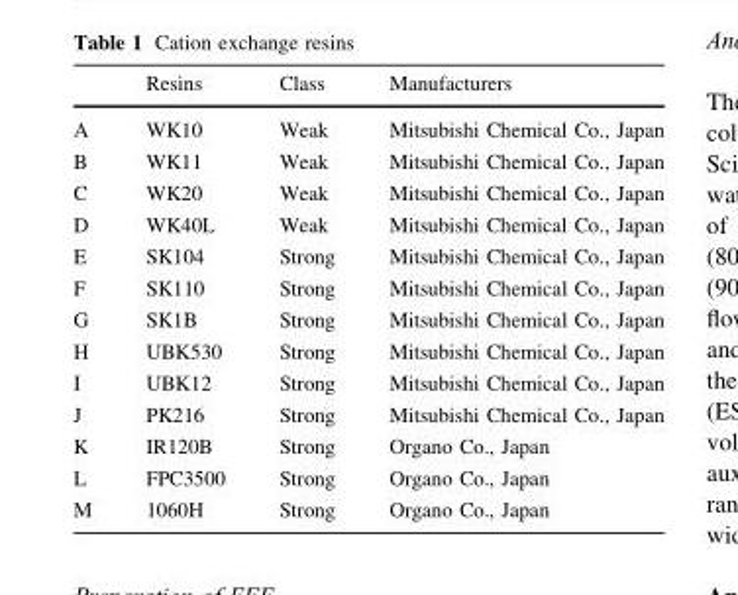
<table><thead><tr><td></td><td>Resins</td><td>Class</td><td>Manufacturers</td></tr></thead><tbody><tr><td>A</td><td>WK10</td><td>Weak</td><td>Mitsubishi Chemical Co., Japan</td></tr><tr><td>B</td><td>WK11</td><td>Weak</td><td>Mitsubishi Chemical Co., Japan</td></tr><tr><td>C</td><td>WK20</td><td>Weak</td><td>Mitsubishi Chemical Co., Japan</td></tr><tr><td>D</td><td>WK40L</td><td>Weak</td><td>Mitsubishi Chemical Co., Japan</td></tr><tr><td>E</td><td>SK104</td><td>Strong</td><td>Mitsubishi Chemical Co., Japan</td></tr><tr><td>F</td><td>SK110</td><td>Strong</td><td>Mitsubishi Chemical Co., Japan</td></tr><tr><td>G</td><td>SK1B</td><td>Strong</td><td>Mitsubishi Chemical Co., Japan</td></tr><tr><td>H</td><td>UBK530</td><td>Strong</td><td>Mitsubishi Chemical Co., Japan</td></tr><tr><td>I</td><td>UBK12</td><td>Strong</td><td>Mitsubishi Chemical Co., Japan</td></tr><tr><td>J</td><td>PK216</td><td>Strong</td><td>Mitsubishi Chemical Co., Japan</td></tr><tr><td>K</td><td>IR120B</td><td>Strong</td><td>Organo Co., Japan</td></tr><tr><td>L</td><td>FPC3500</td><td>Strong</td><td>Organo Co., Japan</td></tr><tr><td>M</td><td>1060H</td><td>Strong</td><td>Organo Co., Japan</td></tr></tbody></table>